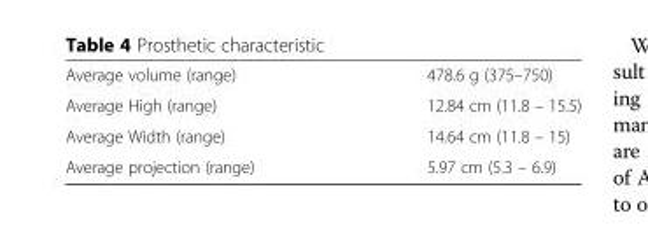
<table><tbody><tr><td>Average volume (range)</td><td>478.6 g (375–750)</td></tr><tr><td>Average High (range)</td><td>12.84 cm (11.8 – 15.5)</td></tr><tr><td>Average Width (range)</td><td>14.64 cm (11.8 – 15)</td></tr><tr><td>Average projection (range)</td><td>5.97 cm (5.3 – 6.9)</td></tr></tbody></table>